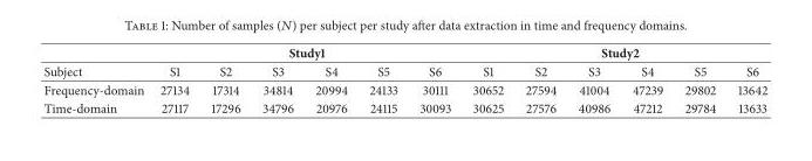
<table><thead><tr><td rowspan="2">Subject</td><td colspan="6">Study1</td><td colspan="6">Study2</td></tr><tr><td>S1</td><td>S2</td><td>S3</td><td>S4</td><td>S5</td><td>S6</td><td>S1</td><td>S2</td><td>S3</td><td>S4</td><td>S5</td><td>S6</td></tr></thead><tbody><tr><td>Frequency-domain</td><td>27134</td><td>17314</td><td>34814</td><td>20994</td><td>24133</td><td>30111</td><td>30652</td><td>27594</td><td>41004</td><td>47239</td><td>29802</td><td>13642</td></tr><tr><td>Time-domain</td><td>27117</td><td>17296</td><td>34796</td><td>20976</td><td>24115</td><td>30093</td><td>30625</td><td>27576</td><td>40986</td><td>47212</td><td>29784</td><td>13633</td></tr></tbody></table>